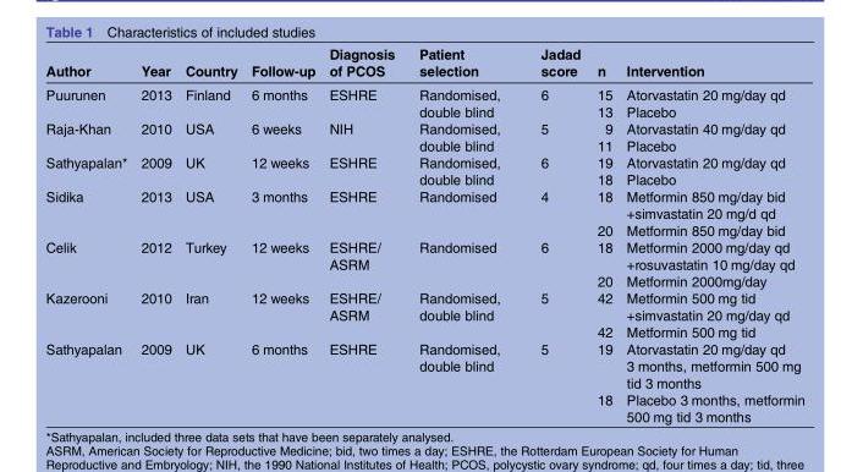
<table><thead><tr><td>Author</td><td>Year</td><td>Country</td><td>Follow-up</td><td>Diagnosis of PCOS</td><td>Patient selection</td><td>Jadad score</td><td>n</td><td>Intervention</td></tr></thead><tbody><tr><td rowspan="2">Puurunen</td><td rowspan="2">2013</td><td rowspan="2">Finland</td><td rowspan="2">6 months</td><td rowspan="2">ESHRE</td><td rowspan="2">Randomised, double blind</td><td rowspan="2">6</td><td>15</td><td>Atorvastatin 20 mg/day qd</td></tr><tr><td>13</td><td>Placebo</td></tr><tr><td rowspan="2">Raja-Khan</td><td rowspan="2">2010</td><td rowspan="2">USA</td><td rowspan="2">6 weeks</td><td rowspan="2">NIH</td><td rowspan="2">Randomised, double blind</td><td rowspan="2">5</td><td>9</td><td>Atorvastatin 40 mg/day qd</td></tr><tr><td>11</td><td>Placebo</td></tr><tr><td rowspan="2">Sathyapalan*</td><td rowspan="2">2009</td><td rowspan="2">UK</td><td rowspan="2">12 weeks</td><td rowspan="2">ESHRE</td><td rowspan="2">Randomised, double blind</td><td rowspan="2">6</td><td>19</td><td>Atorvastatin 20 mg/day qd</td></tr><tr><td>18</td><td>Placebo</td></tr><tr><td rowspan="2">Sidika</td><td rowspan="2">2013</td><td rowspan="2">USA</td><td rowspan="2">3 months</td><td rowspan="2">ESHRE</td><td rowspan="2">Randomised</td><td rowspan="2">4</td><td>18</td><td>Metformin 850 mg/day bid +simvastatin 20 mg/d qd</td></tr><tr><td>20</td><td>Metformin 850 mg/day bid</td></tr><tr><td rowspan="2">Celik</td><td rowspan="2">2012</td><td rowspan="2">Turkey</td><td rowspan="2">12 weeks</td><td rowspan="2">ESHRE/ ASRM</td><td rowspan="2">Randomised</td><td rowspan="2">6</td><td>18</td><td>Metformin 2000 mg/day qd +rosuvastatin 10 mg/day qd</td></tr><tr><td>20</td><td>Metformin 2000mg/day</td></tr><tr><td rowspan="2">Kazerooni</td><td rowspan="2">2010</td><td rowspan="2">Iran</td><td rowspan="2">12 weeks</td><td rowspan="2">ESHRE/ ASRM</td><td rowspan="2">Randomised, double blind</td><td rowspan="2">5</td><td>42</td><td>Metformin 500 mg tid +simvastatin 20 mg/day qd</td></tr><tr><td>42</td><td>Metformin 500 mg tid</td></tr><tr><td rowspan="2">Sathyapalan</td><td rowspan="2">2009</td><td rowspan="2">UK</td><td rowspan="2">6 months</td><td rowspan="2">ESHRE</td><td rowspan="2">Randomised, double blind</td><td rowspan="2">5</td><td>19</td><td>Atorvastatin 20 mg/day qd 3 months, metformin 500 mg tid 3 months</td></tr><tr><td>18</td><td>Placebo 3 months, metformin 500 mg tid 3 months</td></tr></tbody></table>